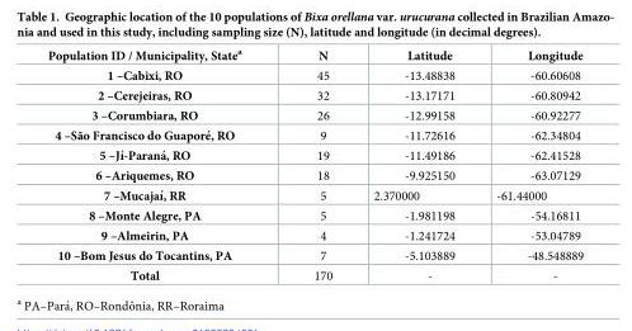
<table><thead><tr><td>Population ID / Municipality, State<sup>a</sup></td><td>N</td><td>Latitude</td><td>Longitude</td></tr></thead><tbody><tr><td>1 –Cabixi, RO</td><td>45</td><td>-13.48838</td><td>-60.60608</td></tr><tr><td>2 –Cerejeiras, RO</td><td>32</td><td>-13.17171</td><td>-60.80942</td></tr><tr><td>3 –Corumbiara, RO</td><td>26</td><td>-12.99158</td><td>-60.92277</td></tr><tr><td>4 –São Francisco do Guapore´, RO</td><td>9</td><td>-11.72616</td><td>-62.34804</td></tr><tr><td>5 –Jı´-Parana´, RO</td><td>19</td><td>-11.49186</td><td>-62.41528</td></tr><tr><td>6 –Ariquemes, RO</td><td>18</td><td>-9.925150</td><td>-63.07129</td></tr><tr><td>7 –Mucajaı´, RR</td><td>5</td><td>2.370000</td><td>-61.44000</td></tr><tr><td>8 –Monte Alegre, PA</td><td>5</td><td>-1.981198</td><td>-54.16811</td></tr><tr><td>9 –Almeirin, PA</td><td>4</td><td>-1.241724</td><td>-53.04789</td></tr><tr><td>10 –Bom Jesus do Tocantins, PA</td><td>7</td><td>-5.103889</td><td>-48.548889</td></tr><tr><td>Total</td><td>170</td><td>-</td><td>-</td></tr></tbody></table>